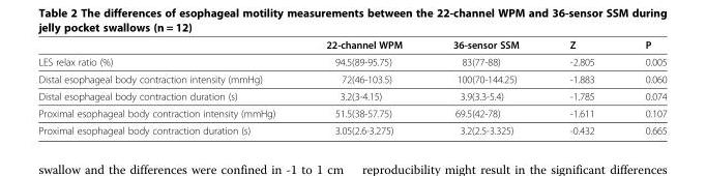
<table><thead><tr><td></td><td>22-channel WPM</td><td>36-sensor SSM</td><td>Z</td><td>P</td></tr></thead><tbody><tr><td>LES relax ratio (%)</td><td>94.5(89-95.75)</td><td>83(77-88)</td><td>-2.805</td><td>0.005</td></tr><tr><td>Distal esophageal body contraction intensity (mmHg)</td><td>72(46-103.5)</td><td>100(70-144.25)</td><td>-1.883</td><td>0.060</td></tr><tr><td>Distal esophageal body contraction duration (s)</td><td>3.2(3-4.15)</td><td>3.9(3.3-5.4)</td><td>-1.785</td><td>0.074</td></tr><tr><td>Proximal esophageal body contraction intensity (mmHg)</td><td>51.5(38-57.75)</td><td>69.5(42-78)</td><td>-1.611</td><td>0.107</td></tr><tr><td>Proximal esophageal body contraction duration (s)</td><td>3.05(2.6-3.275)</td><td>3.2(2.5-3.325)</td><td>-0.432</td><td>0.665</td></tr></tbody></table>